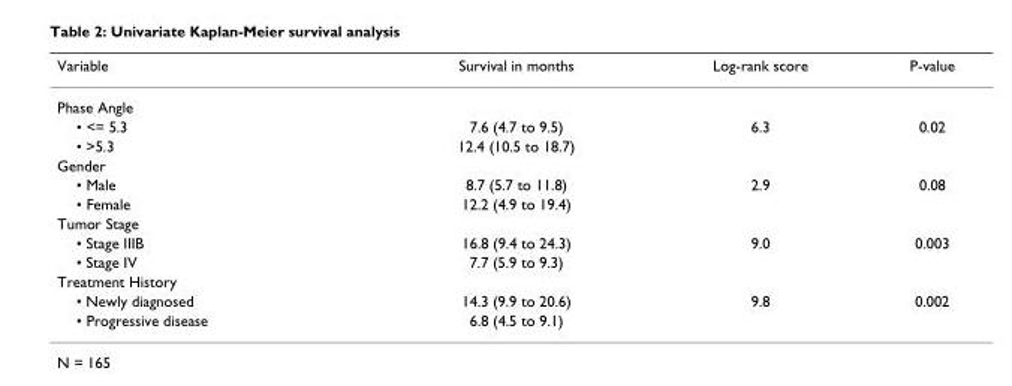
<table><thead><tr><td>Variable</td><td>Survival in months</td><td>Log-rank score</td><td>P-value</td></tr></thead><tbody><tr><td colspan="4">Phase Angle</td></tr><tr><td>• &lt;= 5.3</td><td>7.6 (4.7 to 9.5)</td><td>6.3</td><td>0.02</td></tr><tr><td>• &gt;5.3</td><td>12.4 (10.5 to 18.7)</td><td></td><td></td></tr><tr><td colspan="4">Gender</td></tr><tr><td>• Male</td><td>8.7 (5.7 to 11.8)</td><td>2.9</td><td>0.08</td></tr><tr><td>• Female</td><td>12.2 (4.9 to 19.4)</td><td></td><td></td></tr><tr><td colspan="4">Tumor Stage</td></tr><tr><td>• Stage IIIB</td><td>16.8 (9.4 to 24.3)</td><td>9.0</td><td>0.003</td></tr><tr><td>• Stage IV</td><td>7.7 (5.9 to 9.3)</td><td></td><td></td></tr><tr><td colspan="4">Treatment History</td></tr><tr><td>• Newly diagnosed</td><td>14.3 (9.9 to 20.6)</td><td>9.8</td><td>0.002</td></tr><tr><td>• Progressive disease</td><td>6.8 (4.5 to 9.1)</td><td></td><td></td></tr></tbody></table>